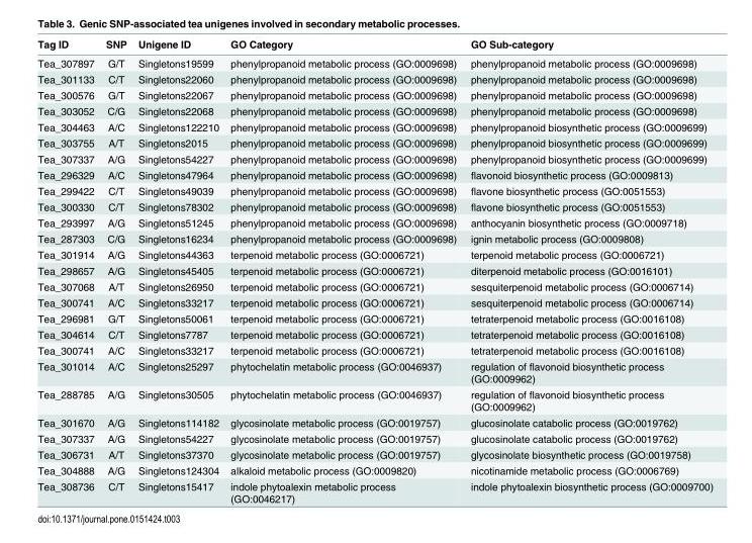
<table><thead><tr><td>Tag ID</td><td>SNP</td><td>Unigene ID</td><td>GO Category</td><td>GO Sub-category</td></tr></thead><tbody><tr><td>Tea_307897</td><td>G/T</td><td>Singletons19599</td><td>phenylpropanoid metabolic process (GO:0009698)</td><td>phenylpropanoid metabolic process (GO:0009698)</td></tr><tr><td>Tea_301133</td><td>C/T</td><td>Singletons22060</td><td>phenylpropanoid metabolic process (GO:0009698)</td><td>phenylpropanoid metabolic process (GO:0009698)</td></tr><tr><td>Tea_300576</td><td>G/T</td><td>Singletons22067</td><td>phenylpropanoid metabolic process (GO:0009698)</td><td>phenylpropanoid metabolic process (GO:0009698)</td></tr><tr><td>Tea_303052</td><td>C/G</td><td>Singletons22068</td><td>phenylpropanoid metabolic process (GO:0009698)</td><td>phenylpropanoid metabolic process (GO:0009698)</td></tr><tr><td>Tea_304463</td><td>A/C</td><td>Singletons122210</td><td>phenylpropanoid metabolic process (GO:0009698)</td><td>phenylpropanoid biosynthetic process (GO:0009699)</td></tr><tr><td>Tea_303755</td><td>A/T</td><td>Singletons2015</td><td>phenylpropanoid metabolic process (GO:0009698)</td><td>phenylpropanoid biosynthetic process (GO:0009699)</td></tr><tr><td>Tea_307337</td><td>A/G</td><td>Singletons54227</td><td>phenylpropanoid metabolic process (GO:0009698)</td><td>phenylpropanoid biosynthetic process (GO:0009699)</td></tr><tr><td>Tea_296329</td><td>A/C</td><td>Singletons47964</td><td>phenylpropanoid metabolic process (GO:0009698)</td><td>flavonoid biosynthetic process (GO:0009813)</td></tr><tr><td>Tea_299422</td><td>C/T</td><td>Singletons49039</td><td>phenylpropanoid metabolic process (GO:0009698)</td><td>flavone biosynthetic process (GO:0051553)</td></tr><tr><td>Tea_300330</td><td>C/T</td><td>Singletons78302</td><td>phenylpropanoid metabolic process (GO:0009698)</td><td>flavone biosynthetic process (GO:0051553)</td></tr><tr><td>Tea_293997</td><td>A/G</td><td>Singletons51245</td><td>phenylpropanoid metabolic process (GO:0009698)</td><td>anthocyanin biosynthetic process (GO:0009718)</td></tr><tr><td>Tea_287303</td><td>C/G</td><td>Singletons16234</td><td>phenylpropanoid metabolic process (GO:0009698)</td><td>ignin metabolic process (GO:0009808)</td></tr><tr><td>Tea_301914</td><td>A/G</td><td>Singletons44363</td><td>terpenoid metabolic process (GO:0006721)</td><td>terpenoid metabolic process (GO:0006721)</td></tr><tr><td>Tea_298657</td><td>A/G</td><td>Singletons45405</td><td>terpenoid metabolic process (GO:0006721)</td><td>diterpenoid metabolic process (GO:0016101)</td></tr><tr><td>Tea_307068</td><td>A/T</td><td>Singletons26950</td><td>terpenoid metabolic process (GO:0006721)</td><td>sesquiterpenoid metabolic process (GO:0006714)</td></tr><tr><td>Tea_300741</td><td>A/C</td><td>Singletons33217</td><td>terpenoid metabolic process (GO:0006721)</td><td>sesquiterpenoid metabolic process (GO:0006714)</td></tr><tr><td>Tea_296981</td><td>G/T</td><td>Singletons50061</td><td>terpenoid metabolic process (GO:0006721)</td><td>tetraterpenoid metabolic process (GO:0016108)</td></tr><tr><td>Tea_304614</td><td>C/T</td><td>Singletons7787</td><td>terpenoid metabolic process (GO:0006721)</td><td>tetraterpenoid metabolic process (GO:0016108)</td></tr><tr><td>Tea_300741</td><td>A/C</td><td>Singletons33217</td><td>terpenoid metabolic process (GO:0006721)</td><td>tetraterpenoid metabolic process (GO:0016108)</td></tr><tr><td>Tea_301014</td><td>A/C</td><td>Singletons25297</td><td>phytochelatin metabolic process (GO:0046937)</td><td>regulation of flavonoid biosynthetic process (GO:0009962)</td></tr><tr><td>Tea_288785</td><td>A/G</td><td>Singletons30505</td><td>phytochelatin metabolic process (GO:0046937)</td><td>regulation of flavonoid biosynthetic process (GO:0009962)</td></tr><tr><td>Tea_301670</td><td>A/G</td><td>Singletons114182</td><td>glycosinolate metabolic process (GO:0019757)</td><td>glucosinolate catabolic process (GO:0019762)</td></tr><tr><td>Tea_307337</td><td>A/G</td><td>Singletons54227</td><td>glycosinolate metabolic process (GO:0019757)</td><td>glucosinolate catabolic process (GO:0019762)</td></tr><tr><td>Tea_306731</td><td>A/T</td><td>Singletons37370</td><td>glycosinolate metabolic process (GO:0019757)</td><td>glycosinolate biosynthetic process (GO:0019758)</td></tr><tr><td>Tea_304888</td><td>A/G</td><td>Singletons124304</td><td>alkaloid metabolic process (GO:0009820)</td><td>nicotinamide metabolic process (GO:0006769)</td></tr><tr><td>Tea_308736</td><td>C/T</td><td>Singletons15417</td><td>indole phytoalexin metabolic process (GO:0046217)</td><td>indole phytoalexin biosynthetic process (GO:0009700)</td></tr></tbody></table>